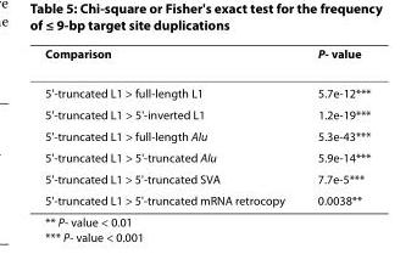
<table><thead><tr><td>Comparison</td><td>P- value</td></tr></thead><tbody><tr><td>5&#x27;-truncated L1 &gt; full-length L1</td><td>5.7e-12***</td></tr><tr><td>5&#x27;-truncated L1 &gt; 5&#x27;-inverted L1</td><td>1.2e-19***</td></tr><tr><td>5&#x27;-truncated L1 &gt; full-length Alu</td><td>5.3e-43***</td></tr><tr><td>5&#x27;-truncated L1 &gt; 5&#x27;-truncated Alu</td><td>5.9e-14***</td></tr><tr><td>5&#x27;-truncated L1 &gt; 5&#x27;-truncated SVA</td><td>7.7e-5***</td></tr><tr><td>5&#x27;-truncated L1 &gt; 5&#x27;-truncated mRNA retrocopy</td><td>0.0038**</td></tr></tbody></table>